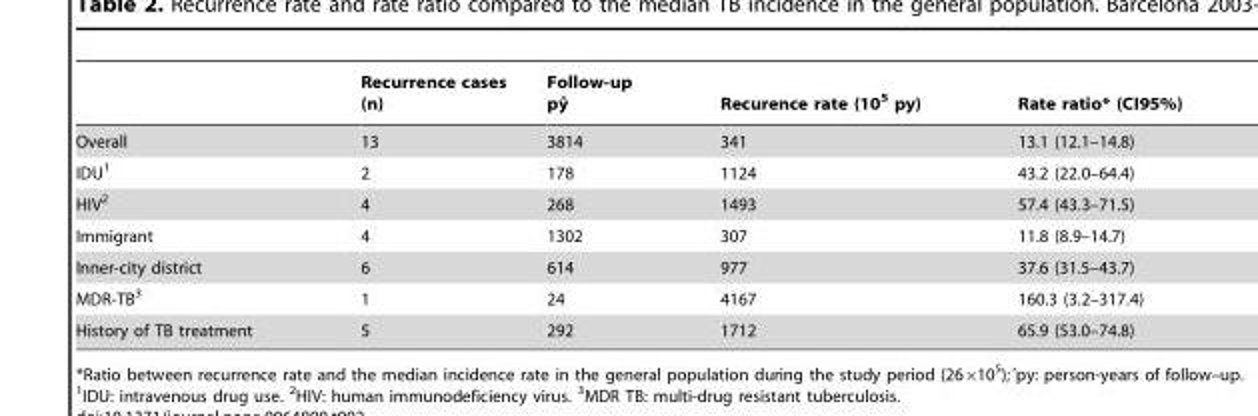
<table><thead><tr><td></td><td>Recurrence cases (n)</td><td>Follow-up pyˆ</td><td>Recurence rate (10<sup>5</sup> py)</td><td>Rate ratio* (CI95%)</td></tr></thead><tbody><tr><td>Overall</td><td>13</td><td>3814</td><td>341</td><td>13.1 (12.1–14.8)</td></tr><tr><td>IDU<sup>1</sup></td><td>2</td><td>178</td><td>1124</td><td>43.2 (22.0–64.4)</td></tr><tr><td>HIV<sup>2</sup></td><td>4</td><td>268</td><td>1493</td><td>57.4 (43.3–71.5)</td></tr><tr><td>Immigrant</td><td>4</td><td>1302</td><td>307</td><td>11.8 (8.9–14.7)</td></tr><tr><td>Inner-city district</td><td>6</td><td>614</td><td>977</td><td>37.6 (31.5–43.7)</td></tr><tr><td>MDR-TB<sup>3</sup></td><td>1</td><td>24</td><td>4167</td><td>160.3 (3.2–317.4)</td></tr><tr><td>History of TB treatment</td><td>5</td><td>292</td><td>1712</td><td>65.9 (53.0–74.8)</td></tr></tbody></table>